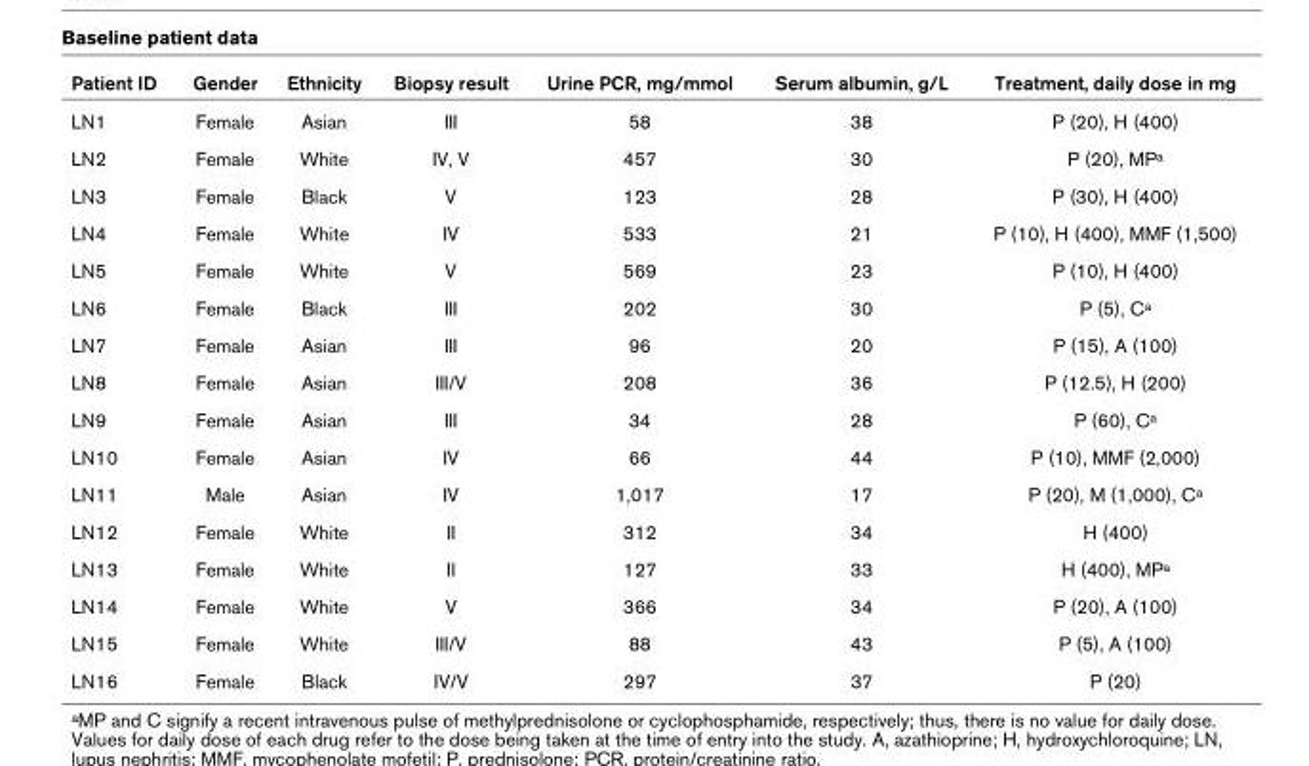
<table><thead><tr><td>Patient ID</td><td>Gender</td><td>Ethnicity</td><td>Biopsy result</td><td>Urine PCR, mg/mmol</td><td>Serum albumin, g/L</td><td>Treatment, daily dose in mg</td></tr></thead><tbody><tr><td>LN1</td><td>Female</td><td>Asian</td><td>III</td><td>58</td><td>38</td><td>P (20), H (400)</td></tr><tr><td>LN2</td><td>Female</td><td>White</td><td>IV, V</td><td>457</td><td>30</td><td>P (20), MP<sup>a</sup></td></tr><tr><td>LN3</td><td>Female</td><td>Black</td><td>V</td><td>123</td><td>28</td><td>P (30), H (400)</td></tr><tr><td>LN4</td><td>Female</td><td>White</td><td>IV</td><td>533</td><td>21</td><td>P (10), H (400), MMF (1,500)</td></tr><tr><td>LN5</td><td>Female</td><td>White</td><td>V</td><td>569</td><td>23</td><td>P (10), H (400)</td></tr><tr><td>LN6</td><td>Female</td><td>Black</td><td>III</td><td>202</td><td>30</td><td>P (5), C<sup>a</sup></td></tr><tr><td>LN7</td><td>Female</td><td>Asian</td><td>III</td><td>96</td><td>20</td><td>P (15), A (100)</td></tr><tr><td>LN8</td><td>Female</td><td>Asian</td><td>III/V</td><td>208</td><td>36</td><td>P (12.5), H (200)</td></tr><tr><td>LN9</td><td>Female</td><td>Asian</td><td>III</td><td>34</td><td>28</td><td>P (60), C<sup>a</sup></td></tr><tr><td>LN10</td><td>Female</td><td>Asian</td><td>IV</td><td>66</td><td>44</td><td>P (10), MMF (2,000)</td></tr><tr><td>LN11</td><td>Male</td><td>Asian</td><td>IV</td><td>1,017</td><td>17</td><td>P (20), M (1,000), C<sup>a</sup></td></tr><tr><td>LN12</td><td>Female</td><td>White</td><td>II</td><td>312</td><td>34</td><td>H (400)</td></tr><tr><td>LN13</td><td>Female</td><td>White</td><td>II</td><td>127</td><td>33</td><td>H (400), MP<sup>a</sup></td></tr><tr><td>LN14</td><td>Female</td><td>White</td><td>V</td><td>366</td><td>34</td><td>P (20), A (100)</td></tr><tr><td>LN15</td><td>Female</td><td>White</td><td>III/V</td><td>88</td><td>43</td><td>P (5), A (100)</td></tr><tr><td>LN16</td><td>Female</td><td>Black</td><td>IV/V</td><td>297</td><td>37</td><td>P (20)</td></tr></tbody></table>